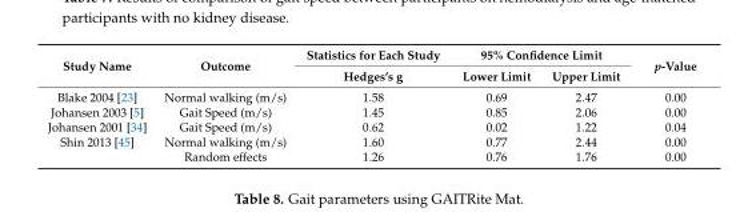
<table><thead><tr><td rowspan="2">Study Name</td><td rowspan="2">Outcome</td><td rowspan="2">Statistics for Each Study Hedges’s g</td><td colspan="2">95% Confidence Limit</td><td rowspan="2">p-Value</td></tr><tr><td>Lower Limit</td><td>Upper Limit</td></tr></thead><tbody><tr><td>Blake 2004 [23]</td><td>Normal walking (m/s)</td><td>1.58</td><td>0.69</td><td>2.47</td><td>0.00</td></tr><tr><td>Johansen 2003 [5]</td><td>Gait Speed (m/s)</td><td>1.45</td><td>0.85</td><td>2.06</td><td>0.00</td></tr><tr><td>Johansen 2001 [34]</td><td>Gait Speed (m/s)</td><td>0.62</td><td>0.02</td><td>1.22</td><td>0.04</td></tr><tr><td rowspan="2">Shin 2013 [45]</td><td>Normal walking (m/s)</td><td>1.60</td><td>0.77</td><td>2.44</td><td>0.00</td></tr><tr><td>Random effects</td><td>1.26</td><td>0.76</td><td>1.76</td><td>0.00</td></tr></tbody></table>